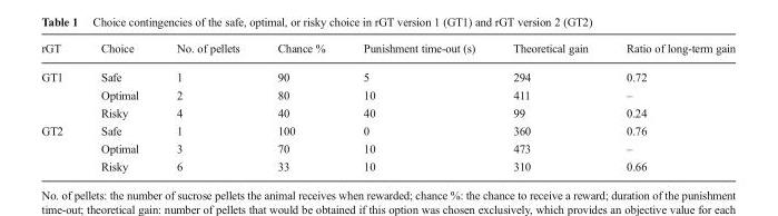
<table><thead><tr><td>rGT</td><td>Choice</td><td>No. of pellets</td><td>Chance %</td><td>Punishment time-out (s)</td><td>Theoretical gain</td><td>Ratio of long-term gain</td></tr></thead><tbody><tr><td rowspan="3">GT1</td><td>Safe</td><td>1</td><td>90</td><td>5</td><td>294</td><td>0.72</td></tr><tr><td>Optimal</td><td>2</td><td>80</td><td>10</td><td>411</td><td>–</td></tr><tr><td>Risky</td><td>4</td><td>40</td><td>40</td><td>99</td><td>0.24</td></tr><tr><td rowspan="3">GT2</td><td>Safe</td><td>1</td><td>100</td><td>0</td><td>360</td><td>0.76</td></tr><tr><td>Optimal</td><td>3</td><td>70</td><td>10</td><td>473</td><td>–</td></tr><tr><td>Risky</td><td>6</td><td>33</td><td>10</td><td>310</td><td>0.66</td></tr></tbody></table>